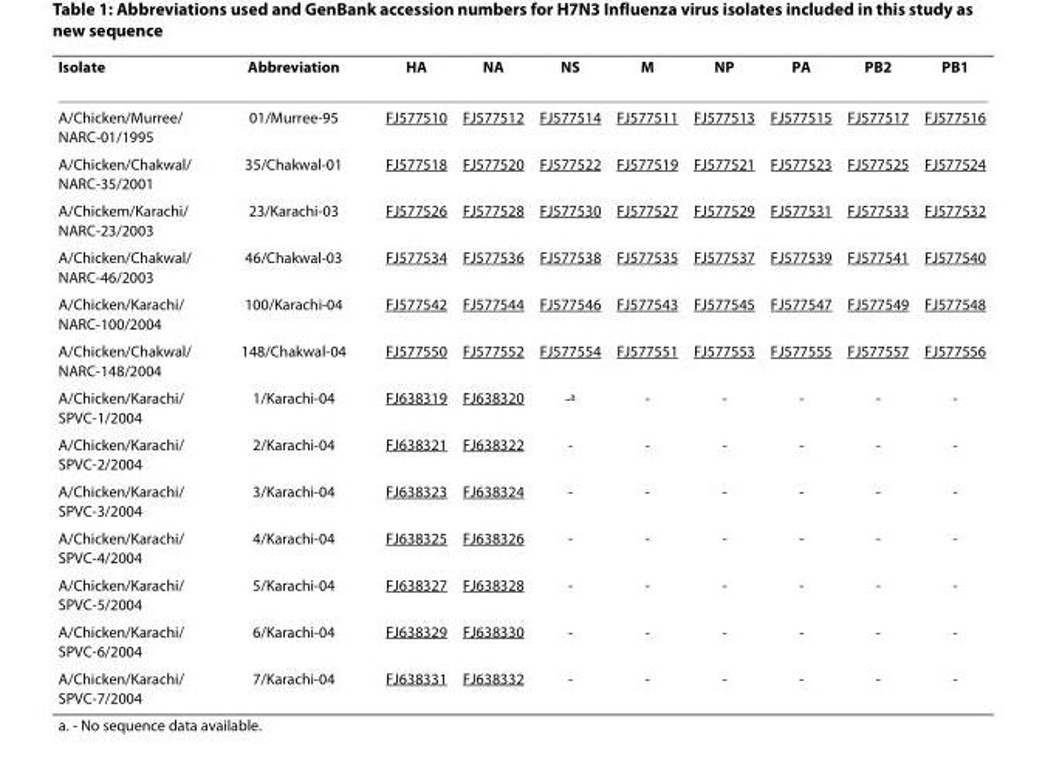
<table><thead><tr><td>Isolate</td><td>Abbreviation</td><td>HA</td><td>NA</td><td>NS</td><td>M</td><td>NP</td><td>PA</td><td>PB2</td><td>PB1</td></tr></thead><tbody><tr><td>A/Chicken/Murree/ NARC-01/1995</td><td>01/Murree-95</td><td>FJ577510</td><td>FJ577512</td><td>FJ577514</td><td>FJ577511</td><td>FJ577513</td><td>FJ577515</td><td>FJ577517</td><td>FJ577516</td></tr><tr><td>A/Chicken/Chakwal/ NARC-35/2001</td><td>35/Chakwal-01</td><td>FJ577518</td><td>FJ577520</td><td>FJ577522</td><td>FJ577519</td><td>FJ577521</td><td>FJ577523</td><td>FJ577525</td><td>FJ577524</td></tr><tr><td>A/Chickem/Karachi/ NARC-23/2003</td><td>23/Karachi-03</td><td>FJ577526</td><td>FJ577528</td><td>FJ577530</td><td>FJ577527</td><td>FJ577529</td><td>FJ577531</td><td>FJ577533</td><td>FJ577532</td></tr><tr><td>A/Chicken/Chakwal/ NARC-46/2003</td><td>46/Chakwal-03</td><td>FJ577534</td><td>FJ577536</td><td>FJ577538</td><td>FJ577535</td><td>FJ577537</td><td>FJ577539</td><td>FJ577541</td><td>FJ577540</td></tr><tr><td>A/Chicken/Karachi/ NARC-100/2004</td><td>100/Karachi-04</td><td>FJ577542</td><td>FJ577544</td><td>FJ577546</td><td>FJ577543</td><td>FJ577545</td><td>FJ577547</td><td>FJ577549</td><td>FJ577548</td></tr><tr><td>A/Chicken/Chakwal/ NARC-148/2004</td><td>148/Chakwal-04</td><td>FJ577550</td><td>FJ577552</td><td>FJ577554</td><td>FJ577551</td><td>FJ577553</td><td>FJ577555</td><td>FJ577557</td><td>FJ577556</td></tr><tr><td>A/Chicken/Karachi/ SPVC-1/2004</td><td>1/Karachi-04</td><td>FJ638319</td><td>FJ638320</td><td>-<sup>a</sup></td><td>-</td><td>-</td><td>-</td><td>-</td><td>-</td></tr><tr><td>A/Chicken/Karachi/ SPVC-2/2004</td><td>2/Karachi-04</td><td>FJ638321</td><td>FJ638322</td><td>-</td><td>-</td><td>-</td><td>-</td><td>-</td><td>-</td></tr><tr><td>A/Chicken/Karachi/ SPVC-3/2004</td><td>3/Karachi-04</td><td>FJ638323</td><td>FJ638324</td><td>-</td><td>-</td><td>-</td><td>-</td><td>-</td><td>-</td></tr><tr><td>A/Chicken/Karachi/ SPVC-4/2004</td><td>4/Karachi-04</td><td>FJ638325</td><td>FJ638326</td><td>-</td><td>-</td><td>-</td><td>-</td><td>-</td><td>-</td></tr><tr><td>A/Chicken/Karachi/ SPVC-5/2004</td><td>5/Karachi-04</td><td>FJ638327</td><td>FJ638328</td><td>-</td><td>-</td><td>-</td><td>-</td><td>-</td><td>-</td></tr><tr><td>A/Chicken/Karachi/ SPVC-6/2004</td><td>6/Karachi-04</td><td>FJ638329</td><td>FJ638330</td><td>-</td><td>-</td><td>-</td><td>-</td><td>-</td><td>-</td></tr><tr><td>A/Chicken/Karachi/ SPVC-7/2004</td><td>7/Karachi-04</td><td>FJ638331</td><td>FJ638332</td><td>-</td><td>-</td><td>-</td><td>-</td><td>-</td><td>-</td></tr></tbody></table>